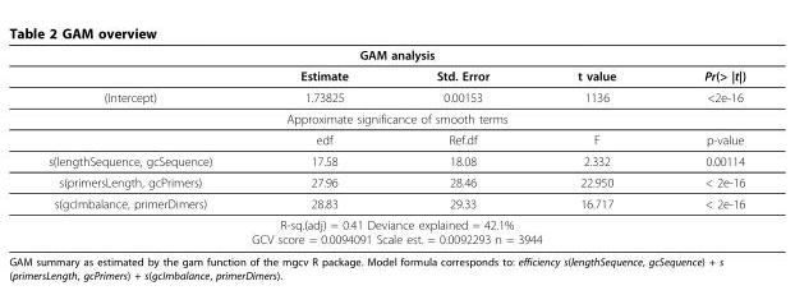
<table><thead><tr><td colspan="5">GAM analysis</td></tr><tr><td></td><td>Estimate</td><td>Std. Error</td><td>t value</td><td>Pr(&gt; |t|)</td></tr></thead><tbody><tr><td>(Intercept)</td><td>1.73825</td><td>0.00153</td><td>1136</td><td>&lt;2e-16</td></tr><tr><td colspan="5">Approximate significance of smooth terms</td></tr><tr><td></td><td>edf</td><td>Ref.df</td><td>F</td><td>p-value</td></tr><tr><td>s(lengthSequence, gcSequence)</td><td>17.58</td><td>18.08</td><td>2.332</td><td>0.00114</td></tr><tr><td>s(primersLength, gcPrimers)</td><td>27.96</td><td>28.46</td><td>22.950</td><td>&lt; 2e-16</td></tr><tr><td>s(gcImbalance, primerDimers)</td><td>28.83</td><td>29.33</td><td>16.717</td><td>&lt; 2e-16</td></tr><tr><td colspan="5">R-sq.(adj) = 0.41 Deviance explained = 42.1% GCV score = 0.0094091 Scale est. = 0.0092293 n = 3944</td></tr></tbody></table>